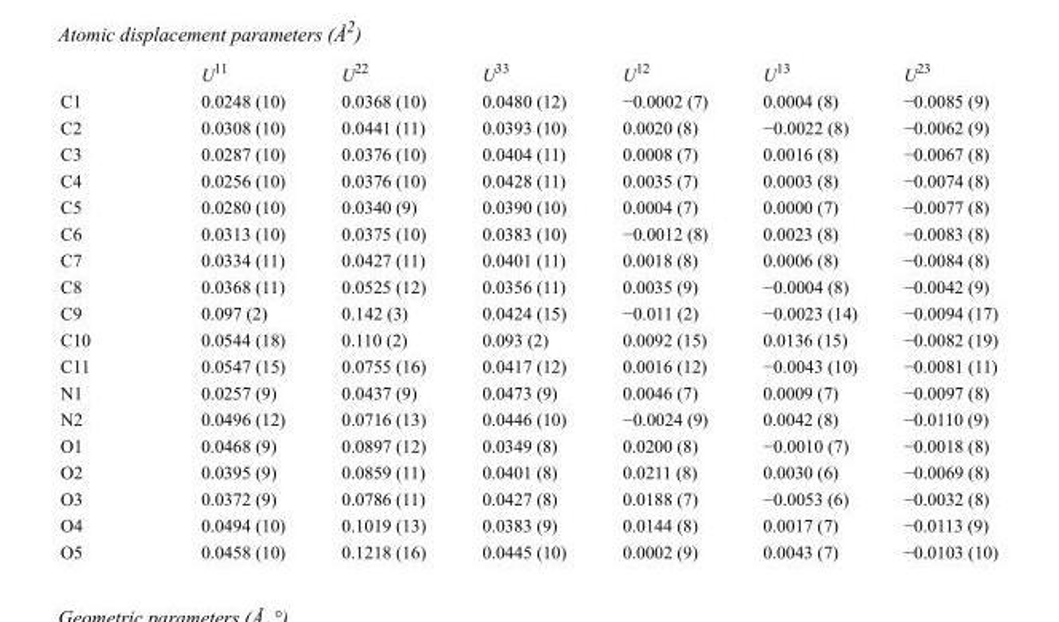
<table><thead><tr><td></td><td>U<sup>11</sup></td><td>U<sup>22</sup></td><td>U<sup>33</sup></td><td>U<sup>12</sup></td><td>U<sup>13</sup></td><td>U<sup>23</sup></td></tr></thead><tbody><tr><td>C1</td><td>0.0248 (10)</td><td>0.0368 (10)</td><td>0.0480 (12)</td><td>−0.0002 (7)</td><td>0.0004 (8)</td><td>−0.0085 (9)</td></tr><tr><td>C2</td><td>0.0308 (10)</td><td>0.0441 (11)</td><td>0.0393 (10)</td><td>0.0020 (8)</td><td>−0.0022 (8)</td><td>−0.0062 (9)</td></tr><tr><td>C3</td><td>0.0287 (10)</td><td>0.0376 (10)</td><td>0.0404 (11)</td><td>0.0008 (7)</td><td>0.0016 (8)</td><td>−0.0067 (8)</td></tr><tr><td>C4</td><td>0.0256 (10)</td><td>0.0376 (10)</td><td>0.0428 (11)</td><td>0.0035 (7)</td><td>0.0003 (8)</td><td>−0.0074 (8)</td></tr><tr><td>C5</td><td>0.0280 (10)</td><td>0.0340 (9)</td><td>0.0390 (10)</td><td>0.0004 (7)</td><td>0.0000 (7)</td><td>−0.0077 (8)</td></tr><tr><td>C6</td><td>0.0313 (10)</td><td>0.0375 (10)</td><td>0.0383 (10)</td><td>−0.0012 (8)</td><td>0.0023 (8)</td><td>−0.0083 (8)</td></tr><tr><td>C7</td><td>0.0334 (11)</td><td>0.0427 (11)</td><td>0.0401 (11)</td><td>0.0018 (8)</td><td>0.0006 (8)</td><td>−0.0084 (8)</td></tr><tr><td>C8</td><td>0.0368 (11)</td><td>0.0525 (12)</td><td>0.0356 (11)</td><td>0.0035 (9)</td><td>−0.0004 (8)</td><td>−0.0042 (9)</td></tr><tr><td>C9</td><td>0.097 (2)</td><td>0.142 (3)</td><td>0.0424 (15)</td><td>−0.011 (2)</td><td>−0.0023 (14)</td><td>−0.0094 (17)</td></tr><tr><td>C10</td><td>0.0544 (18)</td><td>0.110 (2)</td><td>0.093 (2)</td><td>0.0092 (15)</td><td>0.0136 (15)</td><td>−0.0082 (19)</td></tr><tr><td>C11</td><td>0.0547 (15)</td><td>0.0755 (16)</td><td>0.0417 (12)</td><td>0.0016 (12)</td><td>−0.0043 (10)</td><td>−0.0081 (11)</td></tr><tr><td>N1</td><td>0.0257 (9)</td><td>0.0437 (9)</td><td>0.0473 (9)</td><td>0.0046 (7)</td><td>0.0009 (7)</td><td>−0.0097 (8)</td></tr><tr><td>N2</td><td>0.0496 (12)</td><td>0.0716 (13)</td><td>0.0446 (10)</td><td>−0.0024 (9)</td><td>0.0042 (8)</td><td>−0.0110 (9)</td></tr><tr><td>O1</td><td>0.0468 (9)</td><td>0.0897 (12)</td><td>0.0349 (8)</td><td>0.0200 (8)</td><td>−0.0010 (7)</td><td>−0.0018 (8)</td></tr><tr><td>O2</td><td>0.0395 (9)</td><td>0.0859 (11)</td><td>0.0401 (8)</td><td>0.0211 (8)</td><td>0.0030 (6)</td><td>−0.0069 (8)</td></tr><tr><td>O3</td><td>0.0372 (9)</td><td>0.0786 (11)</td><td>0.0427 (8)</td><td>0.0188 (7)</td><td>−0.0053 (6)</td><td>−0.0032 (8)</td></tr><tr><td>O4</td><td>0.0494 (10)</td><td>0.1019 (13)</td><td>0.0383 (9)</td><td>0.0144 (8)</td><td>0.0017 (7)</td><td>−0.0113 (9)</td></tr><tr><td>O5</td><td>0.0458 (10)</td><td>0.1218 (16)</td><td>0.0445 (10)</td><td>0.0002 (9)</td><td>0.0043 (7)</td><td>−0.0103 (10)</td></tr></tbody></table>